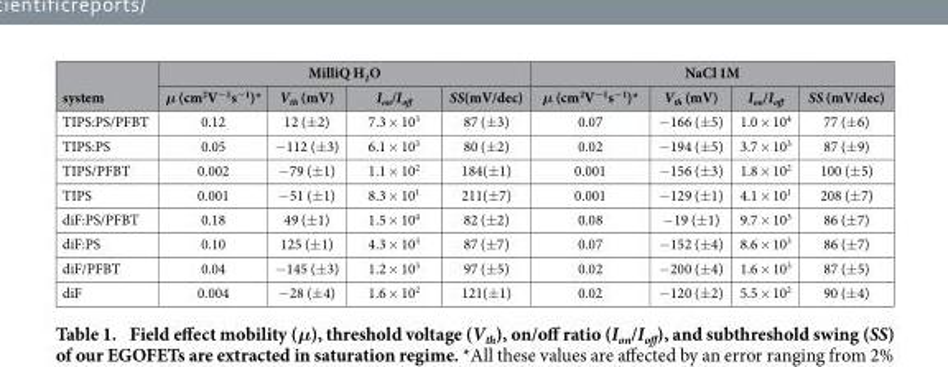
<table><thead><tr><td rowspan="2">system</td><td colspan="4">MilliQ H<sub>2</sub>O</td><td colspan="4">NaCl 1M</td></tr><tr><td>μ (cm<sup>2</sup>V<sup>−1</sup>s<sup>−1</sup>)*</td><td>V<sub>th</sub> (mV)</td><td>I<sub>on</sub>/I<sub>off</sub></td><td>SS(mV/dec)</td><td>μ (cm<sup>2</sup>V<sup>−1</sup>s<sup>−1</sup>)*</td><td>V<sub>th</sub> (mV)</td><td>I<sub>on</sub>/I<sub>off</sub></td><td>SS (mV/dec)</td></tr></thead><tbody><tr><td>TIPS:PS/PFBT</td><td>0.12</td><td>12 (± 2)</td><td>7.3 × 10<sup>3</sup></td><td>87 (± 3)</td><td>0.07</td><td>− 166 (± 5)</td><td>1.0 × 10<sup>4</sup></td><td>77 (± 6)</td></tr><tr><td>TIPS:PS</td><td>0.05</td><td>− 112 (± 3)</td><td>6.1 × 10<sup>3</sup></td><td>80 (± 2)</td><td>0.02</td><td>− 194 (± 5)</td><td>3.7 × 10<sup>3</sup></td><td>87 (± 9)</td></tr><tr><td>TIPS/PFBT</td><td>0.002</td><td>− 79 (± 1)</td><td>1.1 × 10<sup>2</sup></td><td>184(± 1)</td><td>0.001</td><td>− 156 (± 3)</td><td>1.8 × 10<sup>2</sup></td><td>100 (± 5)</td></tr><tr><td>TIPS</td><td>0.001</td><td>− 51 (± 1)</td><td>8.3 × 10<sup>1</sup></td><td>211(± 7)</td><td>0.001</td><td>− 129 (± 1)</td><td>4.1 × 10<sup>1</sup></td><td>208 (± 7)</td></tr><tr><td>diF:PS/PFBT</td><td>0.18</td><td>49 (± 1)</td><td>1.5 × 10<sup>4</sup></td><td>82 (± 2)</td><td>0.08</td><td>− 19 (± 1)</td><td>9.7 × 10<sup>3</sup></td><td>86 (± 7)</td></tr><tr><td>diF:PS</td><td>0.10</td><td>125 (± 1)</td><td>4.3 × 10<sup>3</sup></td><td>87 (± 7)</td><td>0.07</td><td>− 152 (± 4)</td><td>8.6 × 10<sup>3</sup></td><td>86 (± 7)</td></tr><tr><td>diF/PFBT</td><td>0.04</td><td>− 145 (± 3)</td><td>1.2 × 10<sup>3</sup></td><td>97 (± 5)</td><td>0.02</td><td>− 200 (± 4)</td><td>1.6 × 10<sup>3</sup></td><td>87 (± 5)</td></tr><tr><td>diF</td><td>0.004</td><td>− 28 (± 4)</td><td>1.6 × 10<sup>2</sup></td><td>121(± 1)</td><td>0.02</td><td>− 120 (± 2)</td><td>5.5 × 10<sup>2</sup></td><td>90 (± 4)</td></tr></tbody></table>